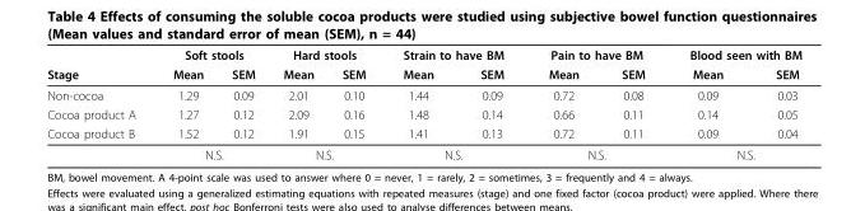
<table><thead><tr><td rowspan="2">Stage</td><td colspan="2">Soft stools</td><td colspan="2">Hard stools</td><td colspan="2">Strain to have BM</td><td colspan="2">Pain to have BM</td><td colspan="2">Blood seen with BM</td></tr><tr><td>Mean</td><td>SEM</td><td>Mean</td><td>SEM</td><td>Mean</td><td>SEM</td><td>Mean</td><td>SEM</td><td>Mean</td><td>SEM</td></tr></thead><tbody><tr><td>Non-cocoa</td><td>1.29</td><td>0.09</td><td>2.01</td><td>0.10</td><td>1.44</td><td>0.09</td><td>0.72</td><td>0.08</td><td>0.09</td><td>0.03</td></tr><tr><td>Cocoa product A</td><td>1.27</td><td>0.12</td><td>2.09</td><td>0.16</td><td>1.48</td><td>0.14</td><td>0.66</td><td>0.11</td><td>0.14</td><td>0.05</td></tr><tr><td rowspan="2">Cocoa product B</td><td>1.52</td><td>0.12</td><td>1.91</td><td>0.15</td><td>1.41</td><td>0.13</td><td>0.72</td><td>0.11</td><td>0.09</td><td>0.04</td></tr><tr><td colspan="2">N.S.</td><td colspan="2">N.S.</td><td colspan="2">N.S.</td><td colspan="2">N.S.</td><td colspan="2">N.S.</td></tr></tbody></table>